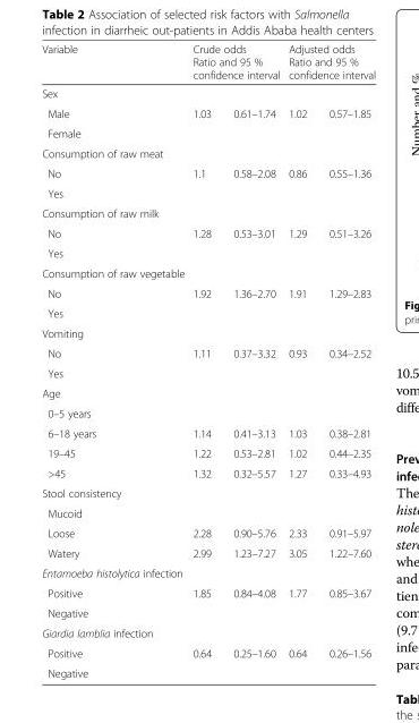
<table><thead><tr><td rowspan="2">Variable Sex</td><td colspan="2">Crude odds Ratio and 95 % confidence interval</td><td colspan="2">Adjusted odds Ratio and 95 % confidence interval</td></tr><tr><td></td><td></td><td></td><td></td></tr></thead><tbody><tr><td>Male</td><td>1.03</td><td>0.61–1.74</td><td>1.02</td><td>0.57–1.85</td></tr><tr><td colspan="5">Female</td></tr><tr><td colspan="5">Consumption of raw meat</td></tr><tr><td>No</td><td>1.1</td><td>0.58–2.08</td><td>0.86</td><td>0.55–1.36</td></tr><tr><td colspan="5">Yes</td></tr><tr><td colspan="5">Consumption of raw milk</td></tr><tr><td>No</td><td>1.28</td><td>0.53–3.01</td><td>1.29</td><td>0.51–3.26</td></tr><tr><td colspan="5">Yes</td></tr><tr><td colspan="5">Consumption of raw vegetable</td></tr><tr><td>No</td><td>1.92</td><td>1.36–2.70</td><td>1.91</td><td>1.29–2.83</td></tr><tr><td colspan="5">Yes</td></tr><tr><td colspan="5">Vomiting</td></tr><tr><td>No</td><td>1.11</td><td>0.37–3.32</td><td>0.93</td><td>0.34–2.52</td></tr><tr><td colspan="5">Yes</td></tr><tr><td colspan="5">Age</td></tr><tr><td colspan="5">0–5 years</td></tr><tr><td>6–18 years</td><td>1.14</td><td>0.41–3.13</td><td>1.03</td><td>0.38–2.81</td></tr><tr><td>19–45</td><td>1.22</td><td>0.53–2.81</td><td>1.02</td><td>0.44–2.35</td></tr><tr><td>&gt;45</td><td>1.32</td><td>0.32–5.57</td><td>1.27</td><td>0.33–4.93</td></tr><tr><td colspan="5">Stool consistency</td></tr><tr><td colspan="5">Mucoid</td></tr><tr><td>Loose</td><td>2.28</td><td>0.90–5.76</td><td>2.33</td><td>0.91–5.97</td></tr><tr><td>Watery</td><td>2.99</td><td>1.23–7.27</td><td>3.05</td><td>1.22–7.60</td></tr><tr><td colspan="5">Entamoeba histolytica infection</td></tr><tr><td>Positive</td><td>1.85</td><td>0.84–4.08</td><td>1.77</td><td>0.85–3.67</td></tr><tr><td colspan="5">Negative</td></tr><tr><td colspan="5">Giardia lamblia infection</td></tr><tr><td>Positive</td><td>0.64</td><td>0.25–1.60</td><td>0.64</td><td>0.26–1.56</td></tr><tr><td>Negative</td><td></td><td></td><td></td><td></td></tr></tbody></table>